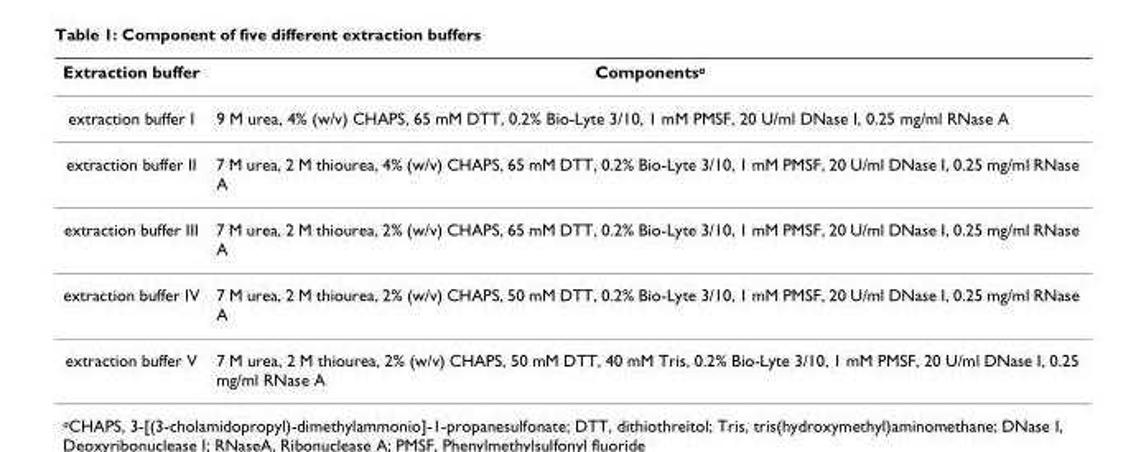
<table><thead><tr><td>Extraction buffer</td><td>Components<sup>a</sup></td></tr></thead><tbody><tr><td>extraction buffer I</td><td>9 M urea, 4% (w/v) CHAPS, 65 mM DTT, 0.2% Bio-Lyte 3/10, 1 mM PMSF, 20 U/ml DNase I, 0.25 mg/ml RNase A</td></tr><tr><td>extraction buffer II</td><td>7 M urea, 2 M thiourea, 4% (w/v) CHAPS, 65 mM DTT, 0.2% Bio-Lyte 3/10, 1 mM PMSF, 20 U/ml DNase I, 0.25 mg/ml RNase A</td></tr><tr><td>extraction buffer III</td><td>7 M urea, 2 M thiourea, 2% (w/v) CHAPS, 65 mM DTT, 0.2% Bio-Lyte 3/10, 1 mM PMSF, 20 U/ml DNase I, 0.25 mg/ml RNase A</td></tr><tr><td>extraction buffer IV</td><td>7 M urea, 2 M thiourea, 2% (w/v) CHAPS, 50 mM DTT, 0.2% Bio-Lyte 3/10, 1 mM PMSF, 20 U/ml DNase I, 0.25 mg/ml RNase A</td></tr><tr><td>extraction buffer V</td><td>7 M urea, 2 M thiourea, 2% (w/v) CHAPS, 50 mM DTT, 40 mM Tris, 0.2% Bio-Lyte 3/10, 1 mM PMSF, 20 U/ml DNase I, 0.25 mg/ml RNase A</td></tr></tbody></table>